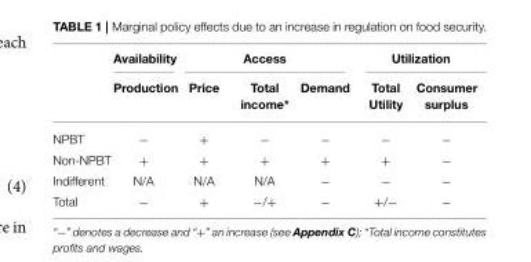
<table><thead><tr><td rowspan="2"></td><td rowspan="2">Availability Production</td><td colspan="3">Access</td><td colspan="2">Utilization</td></tr><tr><td>Price</td><td>Total income*</td><td>Demand</td><td>Total Utility</td><td>Consumer surplus</td></tr></thead><tbody><tr><td>NPBT</td><td>−</td><td>+</td><td>−</td><td>−</td><td>−</td><td>−</td></tr><tr><td>Non-NPBT</td><td>+</td><td>+</td><td>+</td><td>+</td><td>+</td><td>−</td></tr><tr><td>Indifferent</td><td>N/A</td><td>N/A</td><td>N/A</td><td>−</td><td>−</td><td>−</td></tr><tr><td>Total</td><td>−</td><td>+</td><td>−/+</td><td>−</td><td>+/−</td><td>−</td></tr></tbody></table>